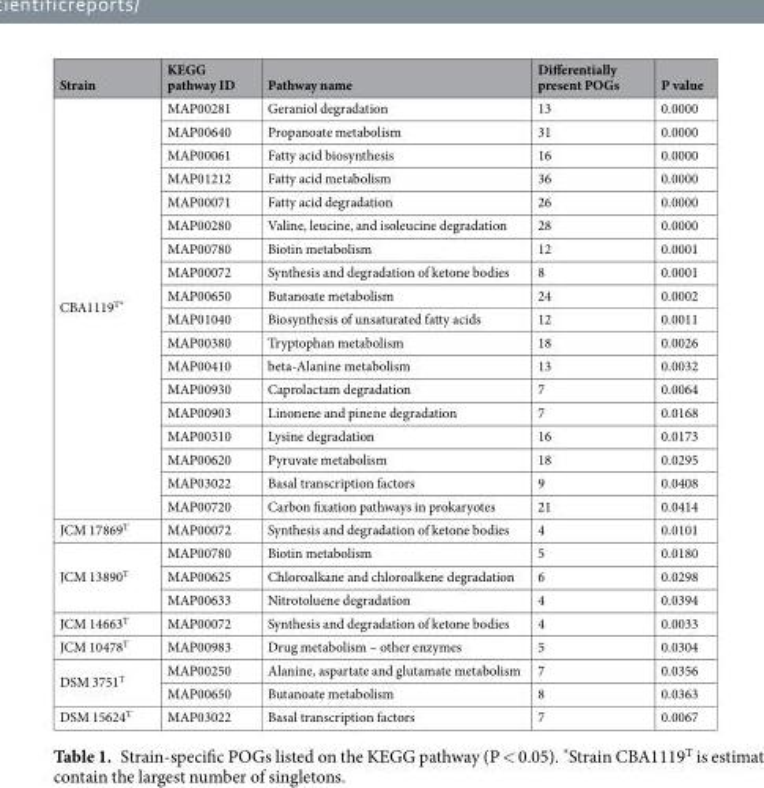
<table><thead><tr><td>Strain</td><td>KEGG pathway ID</td><td>Pathway name</td><td>Differentially present POGs</td><td>P value</td></tr></thead><tbody><tr><td rowspan="18">CBA1119<sup>T*</sup></td><td>MAP00281</td><td>Geraniol degradation</td><td>13</td><td>0.0000</td></tr><tr><td>MAP00640</td><td>Propanoate metabolism</td><td>31</td><td>0.0000</td></tr><tr><td>MAP00061</td><td>Fatty acid biosynthesis</td><td>16</td><td>0.0000</td></tr><tr><td>MAP01212</td><td>Fatty acid metabolism</td><td>36</td><td>0.0000</td></tr><tr><td>MAP00071</td><td>Fatty acid degradation</td><td>26</td><td>0.0000</td></tr><tr><td>MAP00280</td><td>Valine, leucine, and isoleucine degradation</td><td>28</td><td>0.0000</td></tr><tr><td>MAP00780</td><td>Biotin metabolism</td><td>12</td><td>0.0001</td></tr><tr><td>MAP00072</td><td>Synthesis and degradation of ketone bodies</td><td>8</td><td>0.0001</td></tr><tr><td>MAP00650</td><td>Butanoate metabolism</td><td>24</td><td>0.0002</td></tr><tr><td>MAP01040</td><td>Biosynthesis of unsaturated fatty acids</td><td>12</td><td>0.0011</td></tr><tr><td>MAP00380</td><td>Tryptophan metabolism</td><td>18</td><td>0.0026</td></tr><tr><td>MAP00410</td><td>beta-Alanine metabolism</td><td>13</td><td>0.0032</td></tr><tr><td>MAP00930</td><td>Caprolactam degradation</td><td>7</td><td>0.0064</td></tr><tr><td>MAP00903</td><td>Linonene and pinene degradation</td><td>7</td><td>0.0168</td></tr><tr><td>MAP00310</td><td>Lysine degradation</td><td>16</td><td>0.0173</td></tr><tr><td>MAP00620</td><td>Pyruvate metabolism</td><td>18</td><td>0.0295</td></tr><tr><td>MAP03022</td><td>Basal transcription factors</td><td>9</td><td>0.0408</td></tr><tr><td>MAP00720</td><td>Carbon fixation pathways in prokaryotes</td><td>21</td><td>0.0414</td></tr><tr><td>JCM 17869<sup>T</sup></td><td>MAP00072</td><td>Synthesis and degradation of ketone bodies</td><td>4</td><td>0.0101</td></tr><tr><td rowspan="3">JCM 13890<sup>T</sup></td><td>MAP00780</td><td>Biotin metabolism</td><td>5</td><td>0.0180</td></tr><tr><td>MAP00625</td><td>Chloroalkane and chloroalkene degradation</td><td>6</td><td>0.0298</td></tr><tr><td>MAP00633</td><td>Nitrotoluene degradation</td><td>4</td><td>0.0394</td></tr><tr><td>JCM 14663<sup>T</sup></td><td>MAP00072</td><td>Synthesis and degradation of ketone bodies</td><td>4</td><td>0.0033</td></tr><tr><td>JCM 10478<sup>T</sup></td><td>MAP00983</td><td>Drug metabolism – other enzymes</td><td>5</td><td>0.0304</td></tr><tr><td rowspan="2">DSM 3751<sup>T</sup></td><td>MAP00250</td><td>Alanine, aspartate and glutamate metabolism</td><td>7</td><td>0.0356</td></tr><tr><td>MAP00650</td><td>Butanoate metabolism</td><td>8</td><td>0.0363</td></tr><tr><td>DSM 15624<sup>T</sup></td><td>MAP03022</td><td>Basal transcription factors</td><td>7</td><td>0.0067</td></tr></tbody></table>